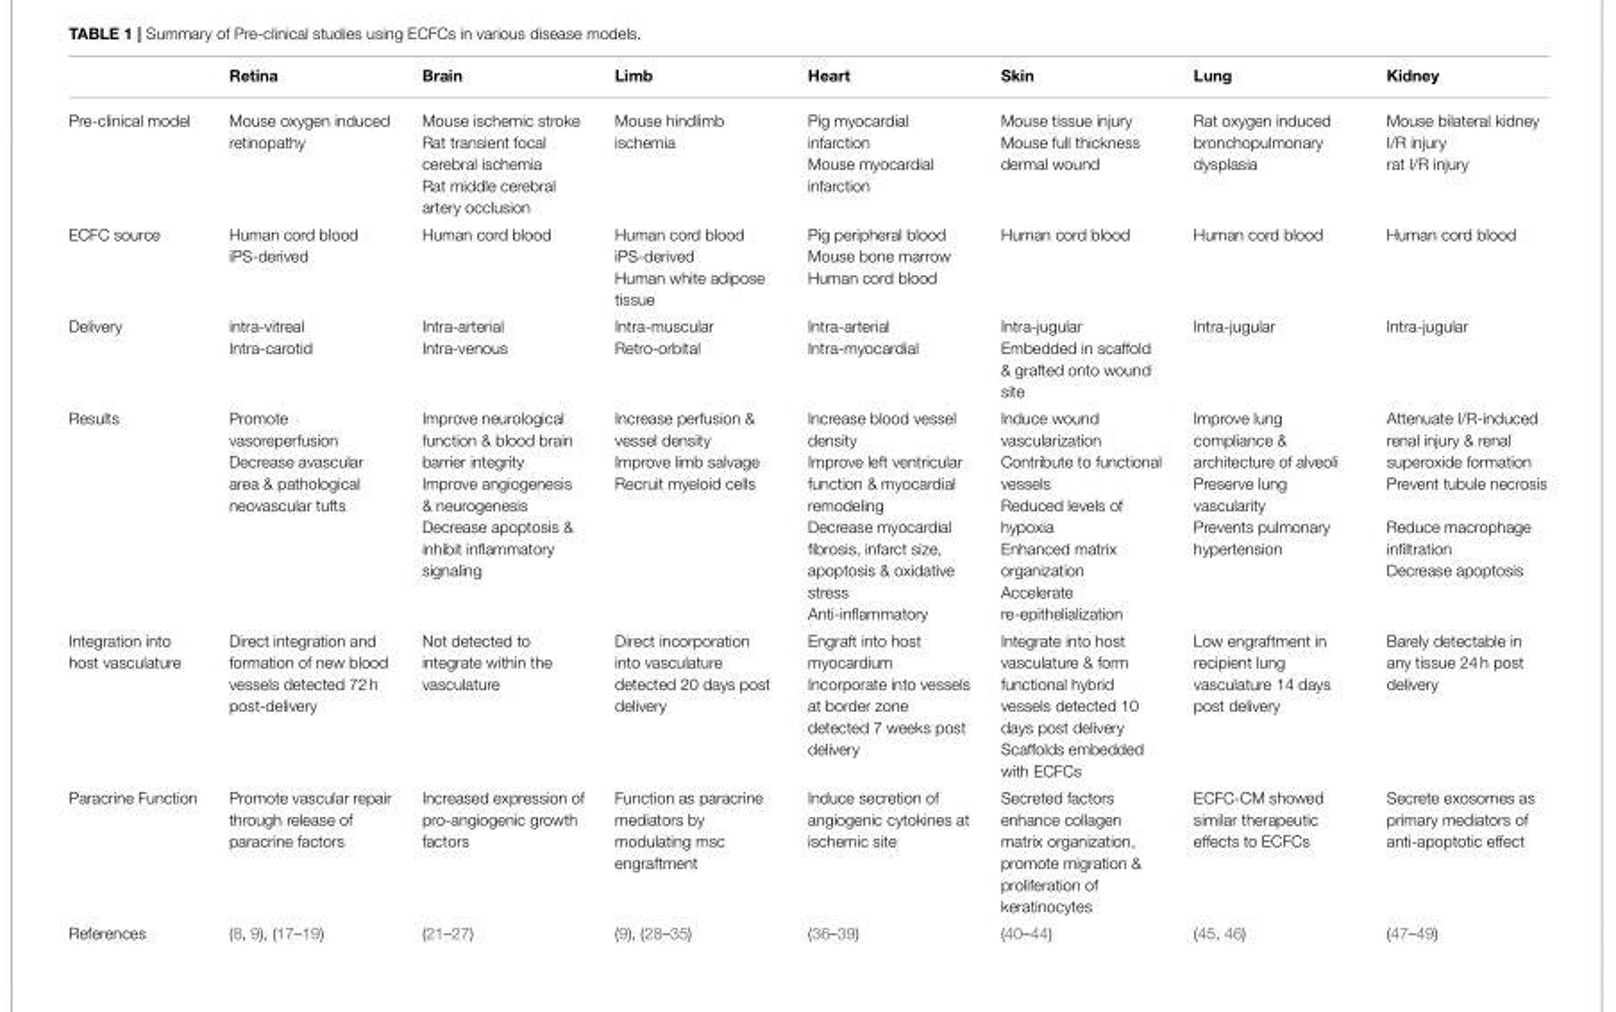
<table><thead><tr><td></td><td>Retina</td><td>Brain</td><td>Limb</td><td>Heart</td><td>Skin</td><td>Lung</td><td>Kidney</td></tr></thead><tbody><tr><td>Pre-clinical model</td><td>Mouse oxygen induced retinopathy</td><td>Mouse ischemic stroke Rat transient focal cerebral ischemia Rat middle cerebral artery occlusion</td><td>Mouse hindlimb ischemia</td><td>Pig myocardial infarction Mouse myocardial infarction</td><td>Mouse tissue injury Mouse full thickness dermal wound</td><td>Rat oxygen induced bronchopulmonary dysplasia</td><td>Mouse bilateral kidney I/R injury rat I/R injury</td></tr><tr><td>ECFC source</td><td>Human cord blood iPS-derived</td><td>Human cord blood</td><td>Human cord blood iPS-derived Human white adipose tissue</td><td>Pig peripheral blood Mouse bone marrow Human cord blood</td><td>Human cord blood</td><td>Human cord blood</td><td>Human cord blood</td></tr><tr><td>Delivery</td><td>intra-vitreal Intra-carotid</td><td>Intra-arterial Intra-venous</td><td>Intra-muscular Retro-orbital</td><td>Intra-arterial Intra-myocardial</td><td>Intra-jugular Embedded in scaffold &amp; grafted onto wound site</td><td>Intra-jugular</td><td>Intra-jugular</td></tr><tr><td>Results</td><td>Promote vasoreperfusion Decrease avascular area &amp; pathological neovascular tufts</td><td>Improve neurological function &amp; blood brain barrier integrity Improve angiogenesis &amp; neurogenesis Decrease apoptosis &amp; inhibit inflammatory signaling</td><td>Increase perfusion &amp; vessel density Improve limb salvage Recruit myeloid cells</td><td>Increase blood vessel density Improve left ventricular function &amp; myocardial remodeling Decrease myocardial fibrosis, infarct size, apoptosis &amp; oxidative stress Anti-inflammatory</td><td>Induce wound vascularization Contribute to functional vessels Reduced levels of hypoxia Enhanced matrix organization Accelerate re-epithelialization</td><td>Improve lung compliance &amp; architecture of alveoli Preserve lung vascularity Prevents pulmonary hypertension</td><td>Attenuate I/R-induced renal injury &amp; renal superoxide formation Prevent tubule necrosis Reduce macrophage infiltration Decrease apoptosis</td></tr><tr><td>Integration into host vasculature</td><td>Direct integration and formation of new blood vessels detected 72 h post-delivery</td><td>Not detected to integrate within the vasculature</td><td>Direct incorporation into vasculature detected 20 days post delivery</td><td>Engraft into host myocardium Incorporate into vessels at border zone detected 7 weeks post delivery</td><td>Integrate into host vasculature &amp; form functional hybrid vessels detected 10 days post delivery Scaffolds embedded with ECFCs</td><td>Low engraftment in recipient lung vasculature 14 days post delivery</td><td>Barely detectable in any tissue 24 h post delivery</td></tr><tr><td>Paracrine Function</td><td>Promote vascular repair through release of paracrine factors</td><td>Increased expression of pro-angiogenic growth factors</td><td>Function as paracrine mediators by modulating msc engraftment</td><td>Induce secretion of angiogenic cytokines at ischemic site</td><td>Secreted factors enhance collagen matrix organization, promote migration &amp; proliferation of keratinocytes</td><td>ECFC-CM showed similar therapeutic effects to ECFCs</td><td>Secrete exosomes as primary mediators of anti-apoptotic effect</td></tr><tr><td>References</td><td>(8, 9), (17–19)</td><td>(21–27)</td><td>(9), (28–35)</td><td>(36–39)</td><td>(40–44)</td><td>(45, 46)</td><td>(47–49)</td></tr></tbody></table>